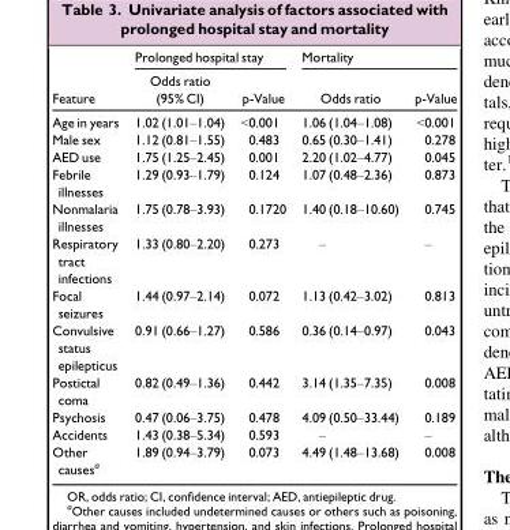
<table><thead><tr><td rowspan="2">Feature</td><td colspan="2">Prolonged hospital stay</td><td colspan="2">Mortality</td></tr><tr><td>Odds ratio (95% CI)</td><td>p-Value</td><td>Odds ratio</td><td>p-Value</td></tr></thead><tbody><tr><td>Age in years</td><td>1.02 (1.01–1.04)</td><td>&lt;0.001</td><td>1.06 (1.04–1.08)</td><td>&lt;0.001</td></tr><tr><td>Male sex</td><td>1.12 (0.81–1.55)</td><td>0.483</td><td>0.65 (0.30–1.41)</td><td>0.278</td></tr><tr><td>AED use</td><td>1.75 (1.25–2.45)</td><td>0.001</td><td>2.20 (1.02–4.77)</td><td>0.045</td></tr><tr><td>Febrile illnesses</td><td>1.29 (0.93–1.79)</td><td>0.124</td><td>1.07 (0.48–2.36)</td><td>0.873</td></tr><tr><td>Nonmalaria illnesses</td><td>1.75 (0.78–3.93)</td><td>0.1720</td><td>1.40 (0.18–10.60)</td><td>0.745</td></tr><tr><td>Respiratory tract infections</td><td>1.33 (0.80–2.20)</td><td>0.273</td><td>–</td><td>–</td></tr><tr><td>Focal seizures</td><td>1.44 (0.97–2.14)</td><td>0.072</td><td>1.13 (0.42–3.02)</td><td>0.813</td></tr><tr><td>Convulsive status epilepticus</td><td>0.91 (0.66–1.27)</td><td>0.586</td><td>0.36 (0.14–0.97)</td><td>0.043</td></tr><tr><td>Postictal coma</td><td>0.82 (0.49–1.36)</td><td>0.442</td><td>3.14 (1.35–7.35)</td><td>0.008</td></tr><tr><td>Psychosis</td><td>0.47 (0.06–3.75)</td><td>0.478</td><td>4.09 (0.50–33.44)</td><td>0.189</td></tr><tr><td>Accidents</td><td>1.43 (0.38–5.34)</td><td>0.593</td><td>–</td><td>–</td></tr><tr><td>Other causes<sup>a</sup></td><td>1.89 (0.94–3.79)</td><td>0.073</td><td>4.49 (1.48–13.68)</td><td>0.008</td></tr></tbody></table>